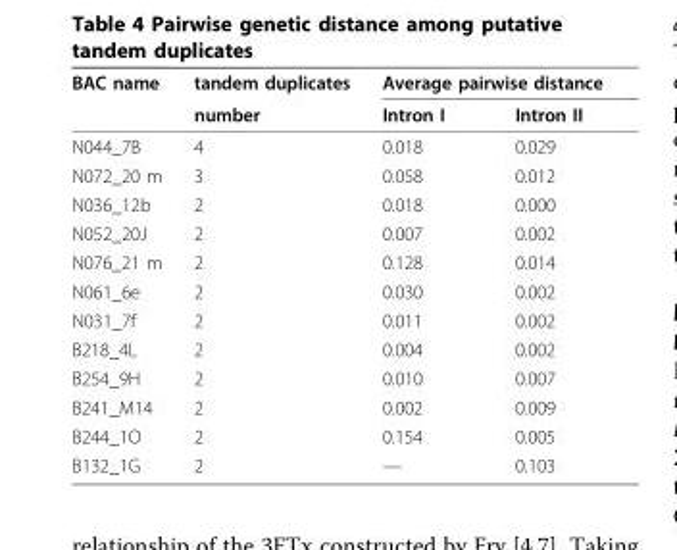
<table><thead><tr><td rowspan="2">BAC name</td><td rowspan="2">tandem duplicates number</td><td colspan="2">Average pairwise distance</td></tr><tr><td>Intron I</td><td>Intron II</td></tr></thead><tbody><tr><td>N044_7B</td><td>4</td><td>0.018</td><td>0.029</td></tr><tr><td>N072_20 m</td><td>3</td><td>0.058</td><td>0.012</td></tr><tr><td>N036_12b</td><td>2</td><td>0.018</td><td>0.000</td></tr><tr><td>N052_20J</td><td>2</td><td>0.007</td><td>0.002</td></tr><tr><td>N076_21 m</td><td>2</td><td>0.128</td><td>0.014</td></tr><tr><td>N061_6e</td><td>2</td><td>0.030</td><td>0.002</td></tr><tr><td>N031_7f</td><td>2</td><td>0.011</td><td>0.002</td></tr><tr><td>B218_4L</td><td>2</td><td>0.004</td><td>0.002</td></tr><tr><td>B254_9H</td><td>2</td><td>0.010</td><td>0.007</td></tr><tr><td>B241_M14</td><td>2</td><td>0.002</td><td>0.009</td></tr><tr><td>B244_1O</td><td>2</td><td>0.154</td><td>0.005</td></tr><tr><td>B132_1G</td><td>2</td><td>—</td><td>0.103</td></tr></tbody></table>